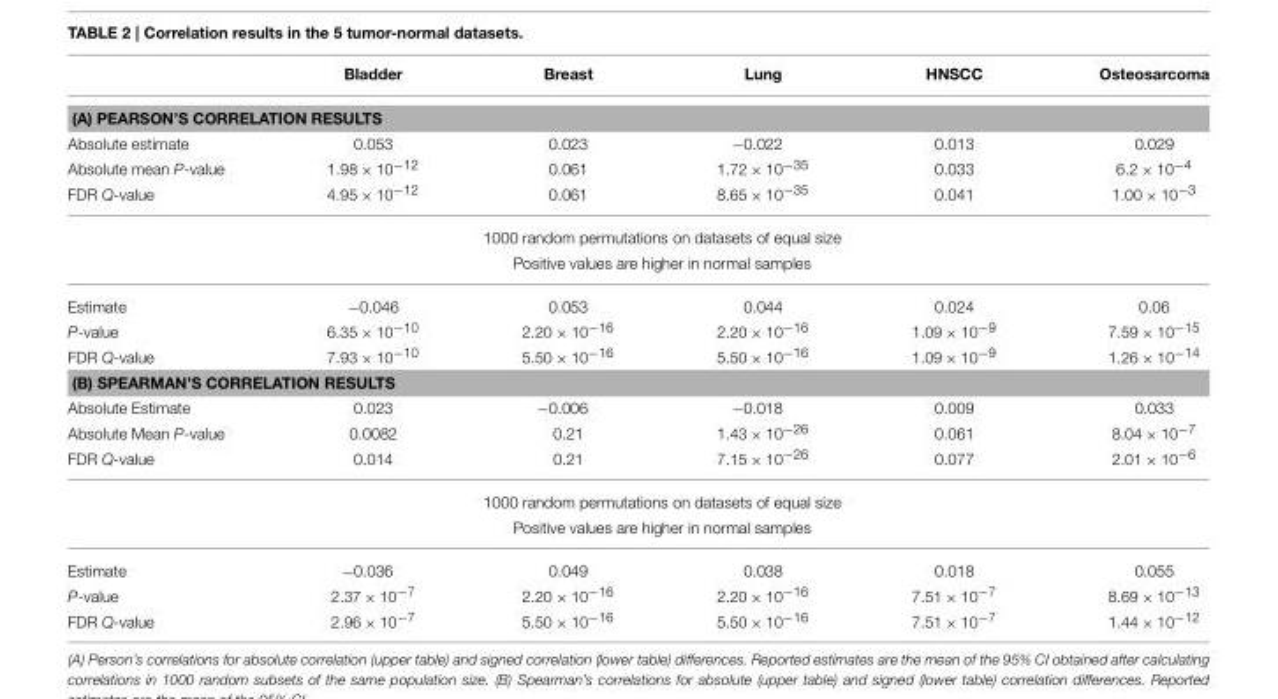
<table><thead><tr><td></td><td>Bladder</td><td>Breast</td><td>Lung</td><td>HNSCC</td><td>Osteosarcoma</td></tr></thead><tbody><tr><td colspan="6">(A) PEARSON’S CORRELATION RESULTS</td></tr><tr><td>Absolute estimate</td><td>0.053</td><td>0.023</td><td>−0.022</td><td>0.013</td><td>0.029</td></tr><tr><td>Absolute mean P-value</td><td>1.98 × 10<sup>−12</sup></td><td>0.061</td><td>1.72 × 10<sup>−35</sup></td><td>0.033</td><td>6.2 × 10<sup>−4</sup></td></tr><tr><td rowspan="3">FDR Q-value</td><td>4.95 × 10<sup>−12</sup></td><td>0.061</td><td>8.65 × 10<sup>−35</sup></td><td>0.041</td><td>1.00 × 10<sup>−3</sup></td></tr><tr><td colspan="4">1000 random permutations on datasets of equal size</td><td></td></tr><tr><td colspan="4">Positive values are higher in normal samples</td><td></td></tr><tr><td>Estimate</td><td>−0.046</td><td>0.053</td><td>0.044</td><td>0.024</td><td>0.06</td></tr><tr><td>P-value</td><td>6.35 × 10<sup>−10</sup></td><td>2.20 × 10<sup>−16</sup></td><td>2.20 × 10<sup>−16</sup></td><td>1.09 × 10<sup>−9</sup></td><td>7.59 × 10<sup>−15</sup></td></tr><tr><td>FDR Q-value</td><td>7.93 × 10<sup>−10</sup></td><td>5.50 × 10<sup>−16</sup></td><td>5.50 × 10<sup>−16</sup></td><td>1.09 × 10<sup>−9</sup></td><td>1.26 × 10<sup>−14</sup></td></tr><tr><td colspan="6">(B) SPEARMAN’S CORRELATION RESULTS</td></tr><tr><td>Absolute Estimate</td><td>0.023</td><td>−0.006</td><td>−0.018</td><td>0.009</td><td>0.033</td></tr><tr><td>Absolute Mean P-value</td><td>0.0082</td><td>0.21</td><td>1.43 × 10<sup>−26</sup></td><td>0.061</td><td>8.04 × 10<sup>−7</sup></td></tr><tr><td rowspan="3">FDR Q-value</td><td>0.014</td><td>0.21</td><td>7.15 × 10<sup>−26</sup></td><td>0.077</td><td>2.01 × 10<sup>−6</sup></td></tr><tr><td colspan="4">1000 random permutations on datasets of equal size</td><td></td></tr><tr><td colspan="4">Positive values are higher in normal samples</td><td></td></tr><tr><td>Estimate</td><td>−0.036</td><td>0.049</td><td>0.038</td><td>0.018</td><td>0.055</td></tr><tr><td>P-value</td><td>2.37 × 10<sup>−7</sup></td><td>2.20 × 10<sup>−16</sup></td><td>2.20 × 10<sup>−16</sup></td><td>7.51 × 10<sup>−7</sup></td><td>8.69 × 10<sup>−13</sup></td></tr><tr><td>FDR Q-value</td><td>2.96 × 10<sup>−7</sup></td><td>5.50 × 10<sup>−16</sup></td><td>5.50 × 10<sup>−16</sup></td><td>7.51 × 10<sup>−7</sup></td><td>1.44 × 10<sup>−12</sup></td></tr></tbody></table>